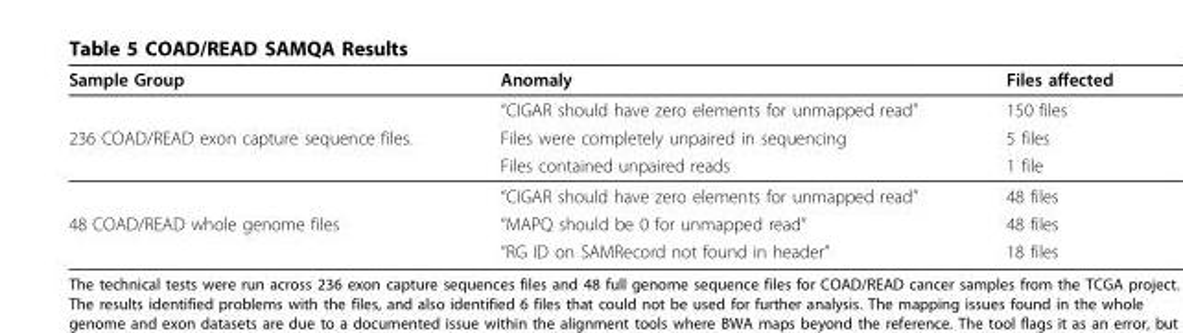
<table><thead><tr><td>Sample Group</td><td>Anomaly</td><td>Files affected</td></tr></thead><tbody><tr><td></td><td>“CIGAR should have zero elements for unmapped read”</td><td>150 files</td></tr><tr><td rowspan="3">236 COAD/READ exon capture sequence files.</td><td>Files were completely unpaired in sequencing</td><td>5 files</td></tr><tr><td>Files contained unpaired reads</td><td>1 file</td></tr><tr><td>“CIGAR should have zero elements for unmapped read”</td><td>48 files</td></tr><tr><td rowspan="2">48 COAD/READ whole genome files</td><td>“MAPQ should be 0 for unmapped read”</td><td>48 files</td></tr><tr><td>“RG ID on SAMRecord not found in header”</td><td>18 files</td></tr></tbody></table>